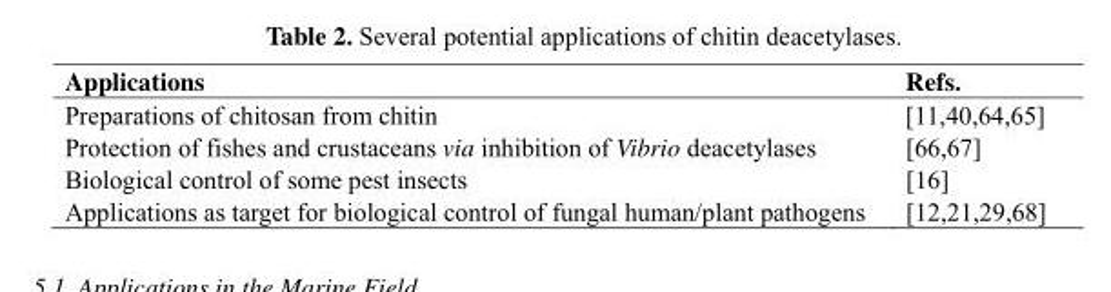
<table><thead><tr><td>Applications</td><td>Refs.</td></tr></thead><tbody><tr><td>Preparations of chitosan from chitin</td><td>[11,40,64,65]</td></tr><tr><td>Protection of fishes and crustaceans via inhibition of Vibrio deacetylases</td><td>[66,67]</td></tr><tr><td>Biological control of some pest insects</td><td>[16]</td></tr><tr><td>Applications as target for biological control of fungal human/plant pathogens</td><td>[12,21,29,68]</td></tr></tbody></table>